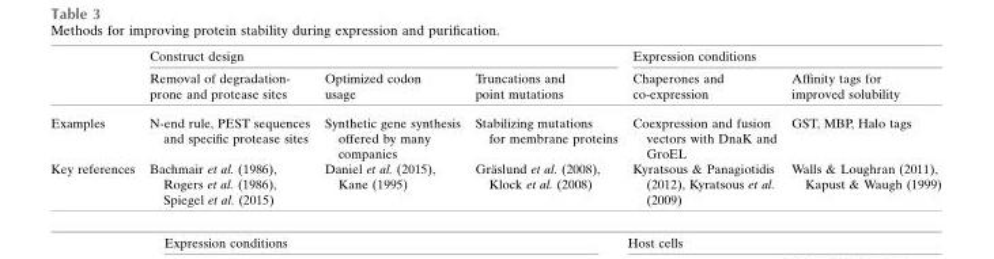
<table><thead><tr><td rowspan="2"></td><td colspan="3">Construct design</td><td colspan="2">Expression conditions</td></tr><tr><td>Removal of degradation- prone and protease sites</td><td>Optimized codon usage</td><td>Truncations and point mutations</td><td>Chaperones and co-expression</td><td>Affinity tags for improved solubility</td></tr></thead><tbody><tr><td>Examples</td><td>N-end rule, PEST sequences and specific protease sites</td><td>Synthetic gene synthesis offered by many companies</td><td>Stabilizing mutations for membrane proteins</td><td>Coexpression and fusion vectors with DnaK and GroEL</td><td>GST, MBP, Halo tags</td></tr><tr><td>Key references</td><td>Bachmair et al. (1986), Rogers et al. (1986), Spiegel et al. (2015)</td><td>Daniel et al. (2015), Kane (1995)</td><td>Gra¨slund et al. (2008), Klock et al. (2008)</td><td>Kyratsous &amp; Panagiotidis (2012), Kyratsous et al. (2009)</td><td>Walls &amp; Loughran (2011), Kapust &amp; Waugh (1999)</td></tr></tbody></table>